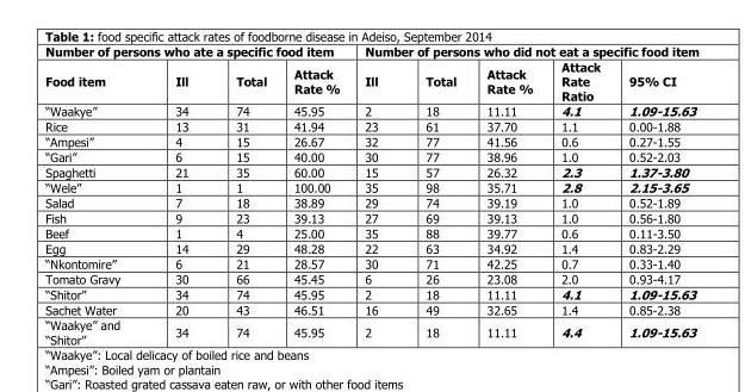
<table><thead><tr><td colspan="4">Number of persons who ate a specific food item</td><td colspan="5">Number of persons who did not eat a specific food item</td></tr><tr><td>Food item</td><td>Ill</td><td>Total</td><td>Attack Rate %</td><td>Ill</td><td>Total</td><td>Attack Rate %</td><td>Attack Rate Ratio</td><td>95% CI</td></tr></thead><tbody><tr><td>“Waakye”</td><td>34</td><td>74</td><td>45.95</td><td>2</td><td>18</td><td>11.11</td><td>4.1</td><td>1.09-15.63</td></tr><tr><td>Rice</td><td>13</td><td>31</td><td>41.94</td><td>23</td><td>61</td><td>37.70</td><td>1.1</td><td>0.00-1.88</td></tr><tr><td>“Ampesi”</td><td>4</td><td>15</td><td>26.67</td><td>32</td><td>77</td><td>41.56</td><td>0.6</td><td>0.27-1.55</td></tr><tr><td>“Gari”</td><td>6</td><td>15</td><td>40.00</td><td>30</td><td>77</td><td>38.96</td><td>1.0</td><td>0.52-2.03</td></tr><tr><td>Spaghetti</td><td>21</td><td>35</td><td>60.00</td><td>15</td><td>57</td><td>26.32</td><td>2.3</td><td>1.37-3.80</td></tr><tr><td>“Wele”</td><td>1</td><td>1</td><td>100.00</td><td>35</td><td>98</td><td>35.71</td><td>2.8</td><td>2.15-3.65</td></tr><tr><td>Salad</td><td>7</td><td>18</td><td>38.89</td><td>29</td><td>74</td><td>39.19</td><td>1.0</td><td>0.52-1.89</td></tr><tr><td>Fish</td><td>9</td><td>23</td><td>39.13</td><td>27</td><td>69</td><td>39.13</td><td>1.0</td><td>0.56-1.80</td></tr><tr><td>Beef</td><td>1</td><td>4</td><td>25.00</td><td>35</td><td>88</td><td>39.77</td><td>0.6</td><td>0.11-3.50</td></tr><tr><td>Egg</td><td>14</td><td>29</td><td>48.28</td><td>22</td><td>63</td><td>34.92</td><td>1.4</td><td>0.83-2.29</td></tr><tr><td>“Nkontomire”</td><td>6</td><td>21</td><td>28.57</td><td>30</td><td>71</td><td>42.25</td><td>0.7</td><td>0.33-1.40</td></tr><tr><td>Tomato Gravy</td><td>30</td><td>66</td><td>45.45</td><td>6</td><td>26</td><td>23.08</td><td>2.0</td><td>0.93-4.17</td></tr><tr><td>“Shitor”</td><td>34</td><td>74</td><td>45.95</td><td>2</td><td>18</td><td>11.11</td><td>4.1</td><td>1.09-15.63</td></tr><tr><td>Sachet Water</td><td>20</td><td>43</td><td>46.51</td><td>16</td><td>49</td><td>32.65</td><td>1.4</td><td>0.85-2.38</td></tr><tr><td>“Waakye” and “Shitor”</td><td>34</td><td>74</td><td>45.95</td><td>2</td><td>18</td><td>11.11</td><td>4.4</td><td>1.09-15.63</td></tr></tbody></table>